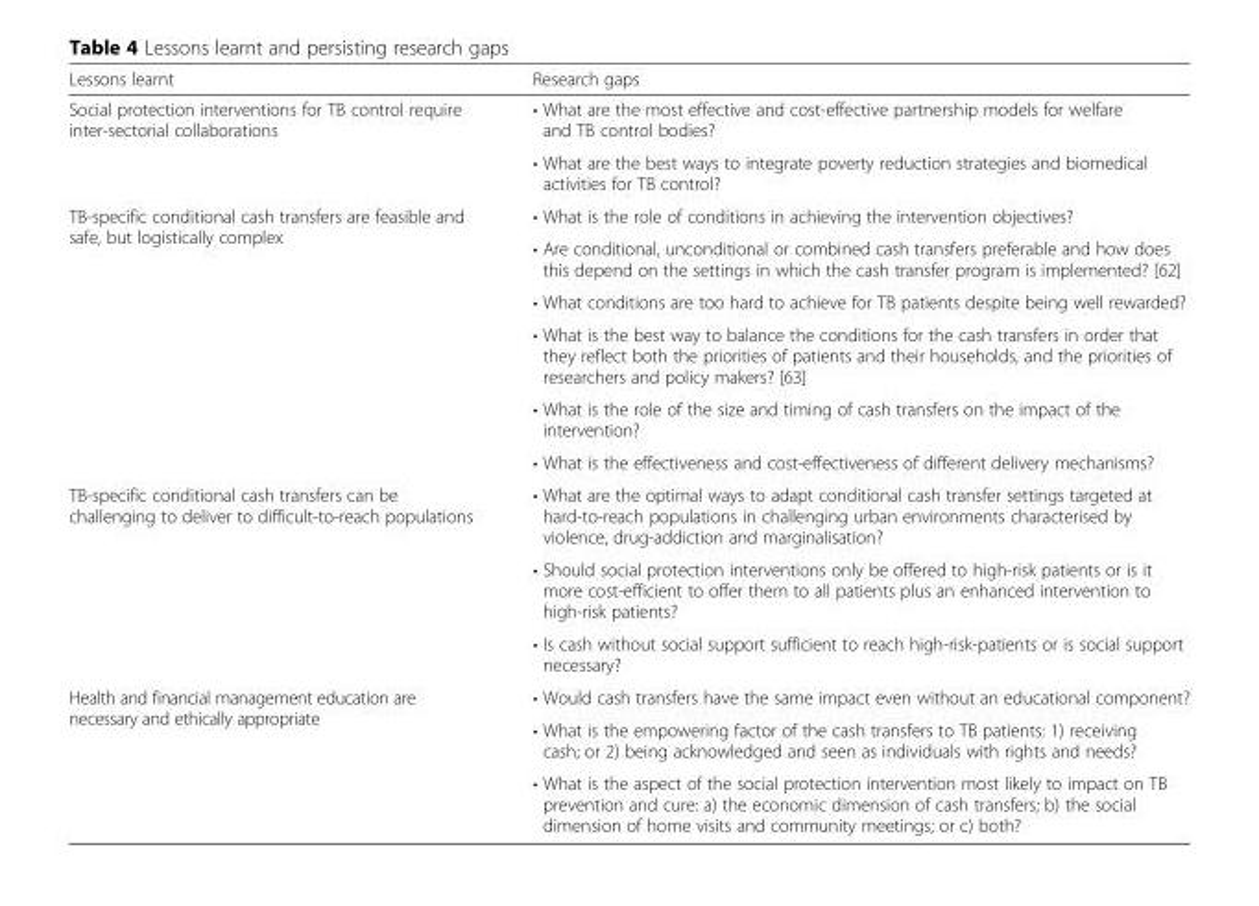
<table><thead><tr><td>Lessons learnt</td><td>Research gaps</td></tr></thead><tbody><tr><td rowspan="2">Social protection interventions for TB control require inter-sectorial collaborations</td><td>• What are the most effective and cost-effective partnership models for welfare and TB control bodies?</td></tr><tr><td>• What are the best ways to integrate poverty reduction strategies and biomedical activities for TB control?</td></tr><tr><td rowspan="6">TB-specific conditional cash transfers are feasible and safe, but logistically complex</td><td>• What is the role of conditions in achieving the intervention objectives?</td></tr><tr><td>• Are conditional, unconditional or combined cash transfers preferable and how does this depend on the settings in which the cash transfer program is implemented? [62]</td></tr><tr><td>• What conditions are too hard to achieve for TB patients despite being well rewarded?</td></tr><tr><td>• What is the best way to balance the conditions for the cash transfers in order that they reflect both the priorities of patients and their households, and the priorities of researchers and policy makers? [63]</td></tr><tr><td>• What is the role of the size and timing of cash transfers on the impact of the intervention?</td></tr><tr><td>• What is the effectiveness and cost-effectiveness of different delivery mechanisms?</td></tr><tr><td rowspan="3">TB-specific conditional cash transfers can be challenging to deliver to difficult-to-reach populations</td><td>• What are the optimal ways to adapt conditional cash transfer settings targeted at hard-to-reach populations in challenging urban environments characterised by violence, drug-addiction and marginalisation?</td></tr><tr><td>• Should social protection interventions only be offered to high-risk patients or is it more cost-efficient to offer them to all patients plus an enhanced intervention to high-risk patients?</td></tr><tr><td>• Is cash without social support sufficient to reach high-risk-patients or is social support necessary?</td></tr><tr><td rowspan="3">Health and financial management education are necessary and ethically appropriate</td><td>• Would cash transfers have the same impact even without an educational component?</td></tr><tr><td>• What is the empowering factor of the cash transfers to TB patients: 1) receiving cash; or 2) being acknowledged and seen as individuals with rights and needs?</td></tr><tr><td>• What is the aspect of the social protection intervention most likely to impact on TB prevention and cure: a) the economic dimension of cash transfers; b) the social dimension of home visits and community meetings; or c) both?</td></tr></tbody></table>